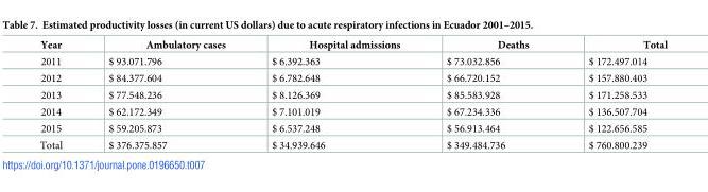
<table><thead><tr><td>Year</td><td>Ambulatory cases</td><td>Hospital admissions</td><td>Deaths</td><td>Total</td></tr></thead><tbody><tr><td>2011</td><td>$ 93.071.796</td><td>$ 6.392.363</td><td>$ 73.032.856</td><td>$ 172.497.014</td></tr><tr><td>2012</td><td>$ 84.377.604</td><td>$ 6.782.648</td><td>$ 66.720.152</td><td>$ 157.880.403</td></tr><tr><td>2013</td><td>$ 77.548.236</td><td>$ 8.126.369</td><td>$ 85.583.928</td><td>$ 171.258.533</td></tr><tr><td>2014</td><td>$ 62.172.349</td><td>$ 7.101.019</td><td>$ 67.234.336</td><td>$ 136.507.704</td></tr><tr><td>2015</td><td>$ 59.205.873</td><td>$ 6.537.248</td><td>$ 56.913.464</td><td>$ 122.656.585</td></tr><tr><td>Total</td><td>$ 376.375.857</td><td>$ 34.939.646</td><td>$ 349.484.736</td><td>$ 760.800.239</td></tr></tbody></table>